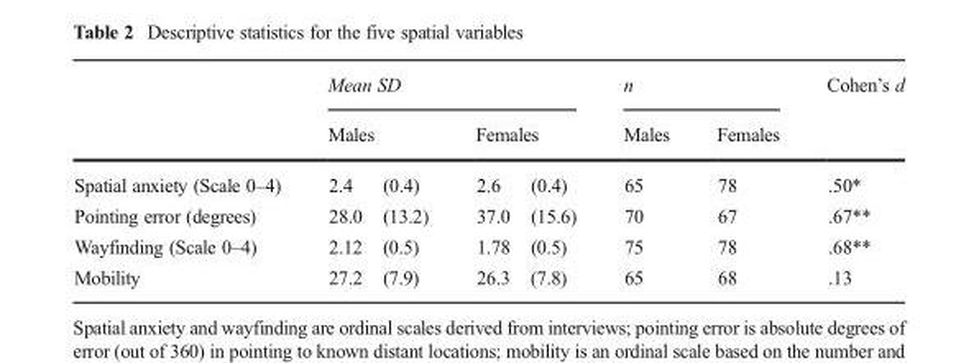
<table><thead><tr><td rowspan="2"></td><td colspan="2">Mean SD</td><td colspan="2">n</td><td rowspan="2">Cohen’s d</td></tr><tr><td>Males</td><td>Females</td><td>Males</td><td>Females</td></tr></thead><tbody><tr><td>Spatial anxiety (Scale 0–4)</td><td>2.4 (0.4)</td><td>2.6 (0.4)</td><td>65</td><td>78</td><td>.50*</td></tr><tr><td>Pointing error (degrees)</td><td>28.0 (13.2)</td><td>37.0 (15.6)</td><td>70</td><td>67</td><td>.67**</td></tr><tr><td>Wayfinding (Scale 0–4)</td><td>2.12 (0.5)</td><td>1.78 (0.5)</td><td>75</td><td>78</td><td>.68**</td></tr><tr><td>Mobility</td><td>27.2 (7.9)</td><td>26.3 (7.8)</td><td>65</td><td>68</td><td>.13</td></tr></tbody></table>